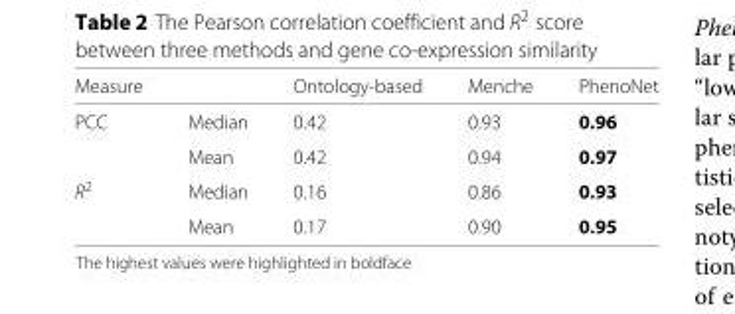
<table><thead><tr><td>Measure</td><td></td><td>Ontology-based</td><td>Menche</td><td>PhenoNet</td></tr></thead><tbody><tr><td rowspan="2">PCC</td><td>Median</td><td>0.42</td><td>0.93</td><td>0.96</td></tr><tr><td>Mean</td><td>0.42</td><td>0.94</td><td>0.97</td></tr><tr><td rowspan="2">R<sup>2</sup></td><td>Median</td><td>0.16</td><td>0.86</td><td>0.93</td></tr><tr><td>Mean</td><td>0.17</td><td>0.90</td><td>0.95</td></tr></tbody></table>